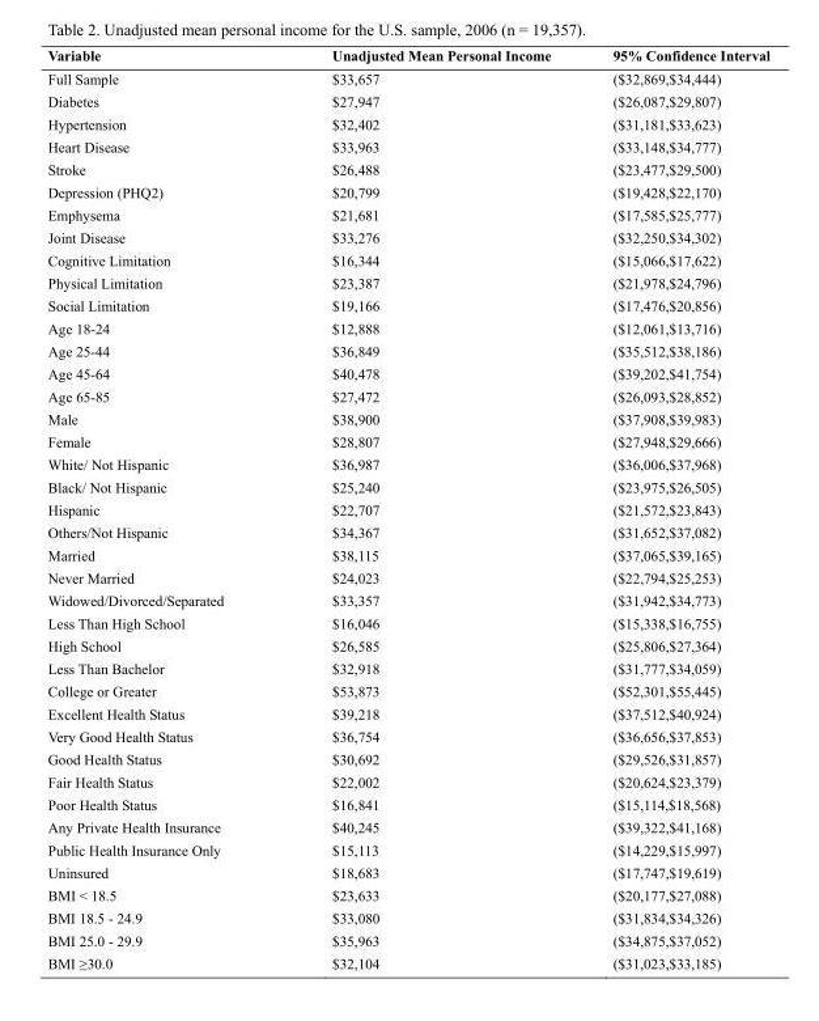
<table><thead><tr><td>Variable</td><td>Unadjusted Mean Personal Income</td><td>95% Confidence Interval</td></tr></thead><tbody><tr><td>Full Sample</td><td>$33,657</td><td>($32,869,$34,444)</td></tr><tr><td>Diabetes</td><td>$27,947</td><td>($26,087,$29,807)</td></tr><tr><td>Hypertension</td><td>$32,402</td><td>($31,181,$33,623)</td></tr><tr><td>Heart Disease</td><td>$33,963</td><td>($33,148,$34,777)</td></tr><tr><td>Stroke</td><td>$26,488</td><td>($23,477,$29,500)</td></tr><tr><td>Depression (PHQ2)</td><td>$20,799</td><td>($19,428,$22,170)</td></tr><tr><td>Emphysema</td><td>$21,681</td><td>($17,585,$25,777)</td></tr><tr><td>Joint Disease</td><td>$33,276</td><td>($32,250,$34,302)</td></tr><tr><td>Cognitive Limitation</td><td>$16,344</td><td>($15,066,$17,622)</td></tr><tr><td>Physical Limitation</td><td>$23,387</td><td>($21,978,$24,796)</td></tr><tr><td>Social Limitation</td><td>$19,166</td><td>($17,476,$20,856)</td></tr><tr><td>Age 18-24</td><td>$12,888</td><td>($12,061,$13,716)</td></tr><tr><td>Age 25-44</td><td>$36,849</td><td>($35,512,$38,186)</td></tr><tr><td>Age 45-64</td><td>$40,478</td><td>($39,202,$41,754)</td></tr><tr><td>Age 65-85</td><td>$27,472</td><td>($26,093,$28,852)</td></tr><tr><td>Male</td><td>$38,900</td><td>($37,908,$39,983)</td></tr><tr><td>Female</td><td>$28,807</td><td>($27,948,$29,666)</td></tr><tr><td>White/ Not Hispanic</td><td>$36,987</td><td>($36,006,$37,968)</td></tr><tr><td>Black/ Not Hispanic</td><td>$25,240</td><td>($23,975,$26,505)</td></tr><tr><td>Hispanic</td><td>$22,707</td><td>($21,572,$23,843)</td></tr><tr><td>Others/Not Hispanic</td><td>$34,367</td><td>($31,652,$37,082)</td></tr><tr><td>Married</td><td>$38,115</td><td>($37,065,$39,165)</td></tr><tr><td>Never Married</td><td>$24,023</td><td>($22,794,$25,253)</td></tr><tr><td>Widowed/Divorced/Separated</td><td>$33,357</td><td>($31,942,$34,773)</td></tr><tr><td>Less Than High School</td><td>$16,046</td><td>($15,338,$16,755)</td></tr><tr><td>High School</td><td>$26,585</td><td>($25,806,$27,364)</td></tr><tr><td>Less Than Bachelor</td><td>$32,918</td><td>($31,777,$34,059)</td></tr><tr><td>College or Greater</td><td>$53,873</td><td>($52,301,$55,445)</td></tr><tr><td>Excellent Health Status</td><td>$39,218</td><td>($37,512,$40,924)</td></tr><tr><td>Very Good Health Status</td><td>$36,754</td><td>($36,656,$37,853)</td></tr><tr><td>Good Health Status</td><td>$30,692</td><td>($29,526,$31,857)</td></tr><tr><td>Fair Health Status</td><td>$22,002</td><td>($20,624,$23,379)</td></tr><tr><td>Poor Health Status</td><td>$16,841</td><td>($15,114,$18,568)</td></tr><tr><td>Any Private Health Insurance</td><td>$40,245</td><td>($39,322,$41,168)</td></tr><tr><td>Public Health Insurance Only</td><td>$15,113</td><td>($14,229,$15,997)</td></tr><tr><td>Uninsured</td><td>$18,683</td><td>($17,747,$19,619)</td></tr><tr><td>BMI &lt; 18.5</td><td>$23,633</td><td>($20,177,$27,088)</td></tr><tr><td>BMI 18.5 - 24.9</td><td>$33,080</td><td>($31,834,$34,326)</td></tr><tr><td>BMI 25.0 - 29.9</td><td>$35,963</td><td>($34,875,$37,052)</td></tr><tr><td>BMI ≥30.0</td><td>$32,104</td><td>($31,023,$33,185)</td></tr></tbody></table>